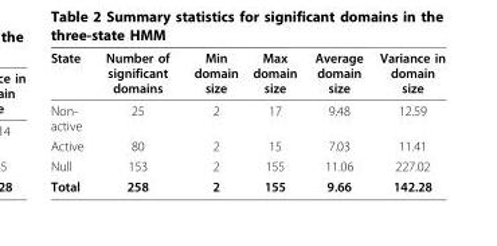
<table><thead><tr><td>State</td><td>Number of significant domains</td><td>Min domain size</td><td>Max domain size</td><td>Average domain size</td><td>Variance in domain size</td></tr></thead><tbody><tr><td>Non- active</td><td>25</td><td>2</td><td>17</td><td>9.48</td><td>12.59</td></tr><tr><td>Active</td><td>80</td><td>2</td><td>15</td><td>7.03</td><td>11.41</td></tr><tr><td>Null</td><td>153</td><td>2</td><td>155</td><td>11.06</td><td>227.02</td></tr><tr><td>Total</td><td>258</td><td>2</td><td>155</td><td>9.66</td><td>142.28</td></tr></tbody></table>